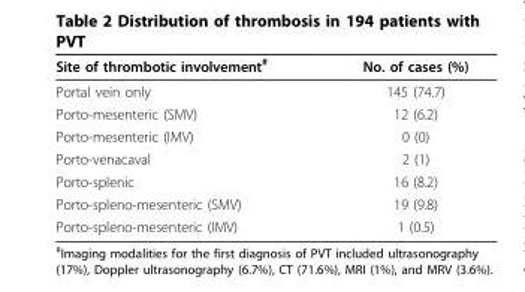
<table><thead><tr><td>Site of thrombotic involvement<sup>#</sup></td><td>No. of cases (%)</td></tr></thead><tbody><tr><td>Portal vein only</td><td>145 (74.7)</td></tr><tr><td>Porto-mesenteric (SMV)</td><td>12 (6.2)</td></tr><tr><td>Porto-mesenteric (IMV)</td><td>0 (0)</td></tr><tr><td>Porto-venacaval</td><td>2 (1)</td></tr><tr><td>Porto-splenic</td><td>16 (8.2)</td></tr><tr><td>Porto-spleno-mesenteric (SMV)</td><td>19 (9.8)</td></tr><tr><td>Porto-spleno-mesenteric (IMV)</td><td>1 (0.5)</td></tr></tbody></table>